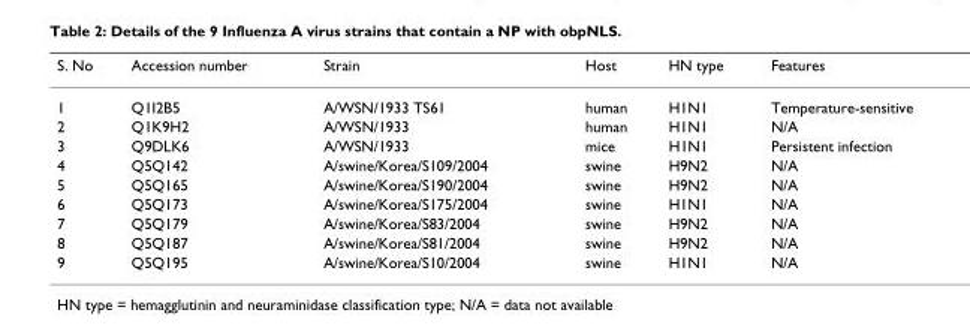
<table><thead><tr><td>S. No</td><td>Accession number</td><td>Strain</td><td>Host</td><td>HN type</td><td>Features</td></tr></thead><tbody><tr><td>1</td><td>Q1I2B5</td><td>A/WSN/1933 TS61</td><td>human</td><td>H1N1</td><td>Temperature-sensitive</td></tr><tr><td>2</td><td>Q1K9H2</td><td>A/WSN/1933</td><td>human</td><td>H1N1</td><td>N/A</td></tr><tr><td>3</td><td>Q9DLK6</td><td>A/WSN/1933</td><td>mice</td><td>H1N1</td><td>Persistent infection</td></tr><tr><td>4</td><td>Q5Q142</td><td>A/swine/Korea/S109/2004</td><td>swine</td><td>H9N2</td><td>N/A</td></tr><tr><td>5</td><td>Q5Q165</td><td>A/swine/Korea/S190/2004</td><td>swine</td><td>H9N2</td><td>N/A</td></tr><tr><td>6</td><td>Q5Q173</td><td>A/swine/Korea/S175/2004</td><td>swine</td><td>H1N1</td><td>N/A</td></tr><tr><td>7</td><td>Q5Q179</td><td>A/swine/Korea/S83/2004</td><td>swine</td><td>H9N2</td><td>N/A</td></tr><tr><td>8</td><td>Q5Q187</td><td>A/swine/Korea/S81/2004</td><td>swine</td><td>H9N2</td><td>N/A</td></tr><tr><td>9</td><td>Q5Q195</td><td>A/swine/Korea/S10/2004</td><td>swine</td><td>H1N1</td><td>N/A</td></tr></tbody></table>